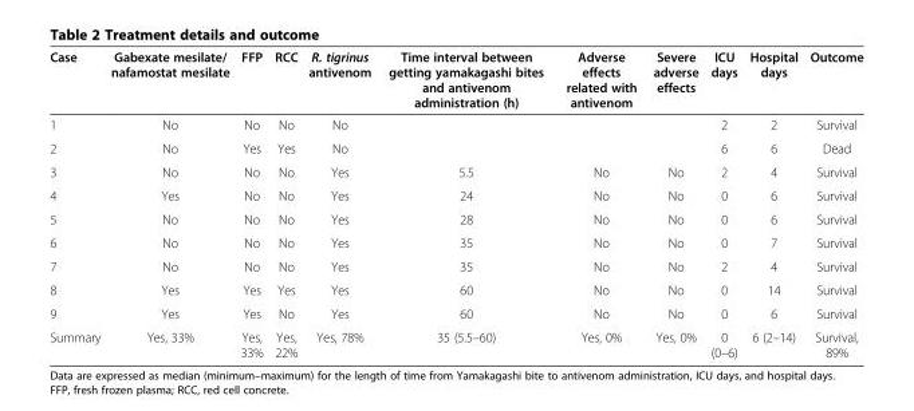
<table><thead><tr><td>Case</td><td>Gabexate mesilate/ nafamostat mesilate</td><td>FFP</td><td>RCC</td><td>R. tigrinus antivenom</td><td>Time interval between getting yamakagashi bites and antivenom administration (h)</td><td>Adverse effects related with antivenom</td><td>Severe adverse effects</td><td>ICU days</td><td>Hospital days</td><td>Outcome</td></tr></thead><tbody><tr><td>1</td><td>No</td><td>No</td><td>No</td><td>No</td><td></td><td></td><td></td><td>2</td><td>2</td><td>Survival</td></tr><tr><td>2</td><td>No</td><td>Yes</td><td>Yes</td><td>No</td><td></td><td></td><td></td><td>6</td><td>6</td><td>Dead</td></tr><tr><td>3</td><td>No</td><td>No</td><td>No</td><td>Yes</td><td>5.5</td><td>No</td><td>No</td><td>2</td><td>4</td><td>Survival</td></tr><tr><td>4</td><td>Yes</td><td>No</td><td>No</td><td>Yes</td><td>24</td><td>No</td><td>No</td><td>0</td><td>6</td><td>Survival</td></tr><tr><td>5</td><td>No</td><td>No</td><td>No</td><td>Yes</td><td>28</td><td>No</td><td>No</td><td>0</td><td>6</td><td>Survival</td></tr><tr><td>6</td><td>No</td><td>No</td><td>No</td><td>Yes</td><td>35</td><td>No</td><td>No</td><td>0</td><td>7</td><td>Survival</td></tr><tr><td>7</td><td>No</td><td>No</td><td>No</td><td>Yes</td><td>35</td><td>No</td><td>No</td><td>2</td><td>4</td><td>Survival</td></tr><tr><td>8</td><td>Yes</td><td>Yes</td><td>Yes</td><td>Yes</td><td>60</td><td>No</td><td>No</td><td>0</td><td>14</td><td>Survival</td></tr><tr><td>9</td><td>Yes</td><td>Yes</td><td>No</td><td>Yes</td><td>60</td><td>No</td><td>No</td><td>0</td><td>6</td><td>Survival</td></tr><tr><td>Summary</td><td>Yes, 33%</td><td>Yes, 33%</td><td>Yes, 22%</td><td>Yes, 78%</td><td>35 (5.5–60)</td><td>Yes, 0%</td><td>Yes, 0%</td><td>0 (0–6)</td><td>6 (2–14)</td><td>Survival, 89%</td></tr></tbody></table>